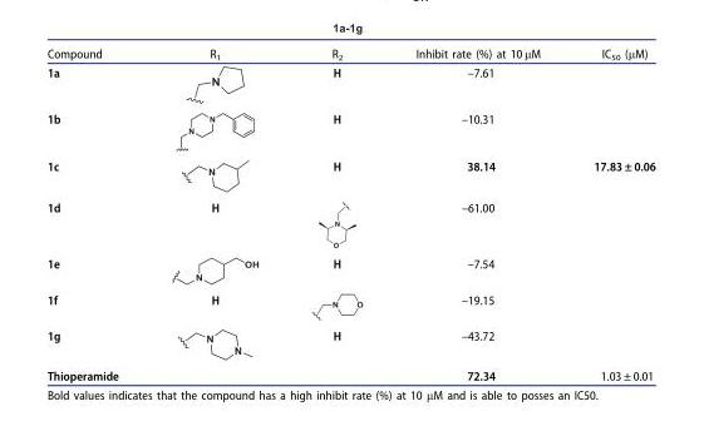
<table><thead><tr><td>Compound</td><td>R<sub>1</sub></td><td>R<sub>2</sub></td><td>Inhibit rate (%) at 10 μM</td><td>IC<sub>50</sub> (μM)</td></tr></thead><tbody><tr><td>1a</td><td></td><td>H</td><td>–7.61</td><td></td></tr><tr><td>1b</td><td></td><td>H</td><td>–10.31</td><td></td></tr><tr><td>1c</td><td></td><td>H</td><td>38.14</td><td>17.83 ± 0.06</td></tr><tr><td>1d</td><td>H</td><td></td><td>–61.00</td><td></td></tr><tr><td>1e</td><td></td><td>H</td><td>–7.54</td><td></td></tr><tr><td>1f</td><td>H</td><td></td><td>–19.15</td><td></td></tr><tr><td>1g</td><td></td><td>H</td><td>–43.72</td><td></td></tr><tr><td>Thioperamide</td><td></td><td></td><td>72.34</td><td>1.03 ± 0.01</td></tr></tbody></table>